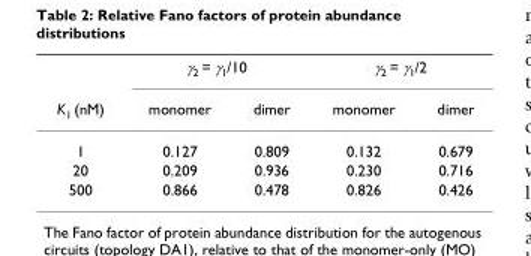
<table><thead><tr><td rowspan="2">K<sub>1</sub> (nM)</td><td colspan="2">γ<sub>2</sub> = γ<sub>1</sub>/10</td><td colspan="2">γ<sub>2</sub> = γ<sub>1</sub>/2</td></tr><tr><td>monomer</td><td>dimer</td><td>monomer</td><td>dimer</td></tr></thead><tbody><tr><td>1</td><td>0.127</td><td>0.809</td><td>0.132</td><td>0.679</td></tr><tr><td>20</td><td>0.209</td><td>0.936</td><td>0.230</td><td>0.716</td></tr><tr><td>500</td><td>0.866</td><td>0.478</td><td>0.826</td><td>0.426</td></tr></tbody></table>